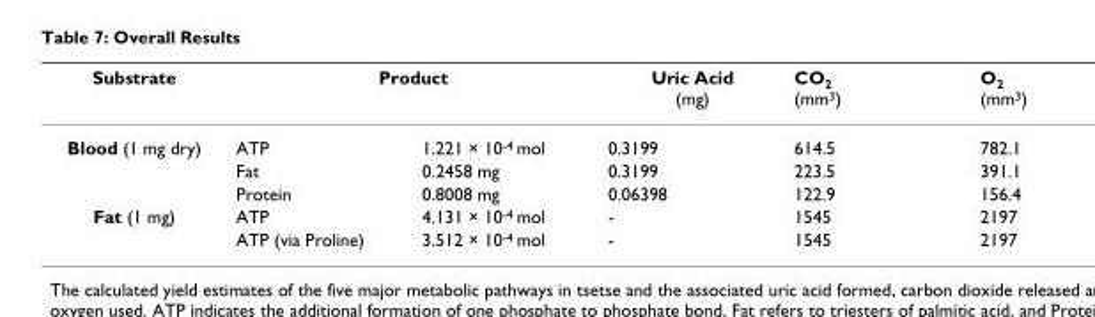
<table><thead><tr><td rowspan="2">Substrate Blood (1 mg dry)</td><td colspan="2">Product</td><td rowspan="2">Uric Acid (mg) 0.3199</td><td rowspan="2">CO<sub>2</sub> (mm<sup>3</sup>) 614.5</td><td rowspan="2">O<sub>2</sub> (mm<sup>3</sup>) 782.1</td></tr><tr><td>ATP</td><td>1.221 × 10<sup>-4</sup> mol</td></tr></thead><tbody><tr><td></td><td>Fat</td><td>0.2458 mg</td><td>0.3199</td><td>223.5</td><td>391.1</td></tr><tr><td></td><td>Protein</td><td>0.8008 mg</td><td>0.06398</td><td>122.9</td><td>156.4</td></tr><tr><td rowspan="2">Fat (1 mg)</td><td>ATP</td><td>4.131 × 10<sup>-4</sup> mol</td><td>-</td><td>1545</td><td>2197</td></tr><tr><td>ATP (via Proline)</td><td>3.512 × 10<sup>-4</sup> mol</td><td>-</td><td>1545</td><td>2197</td></tr></tbody></table>